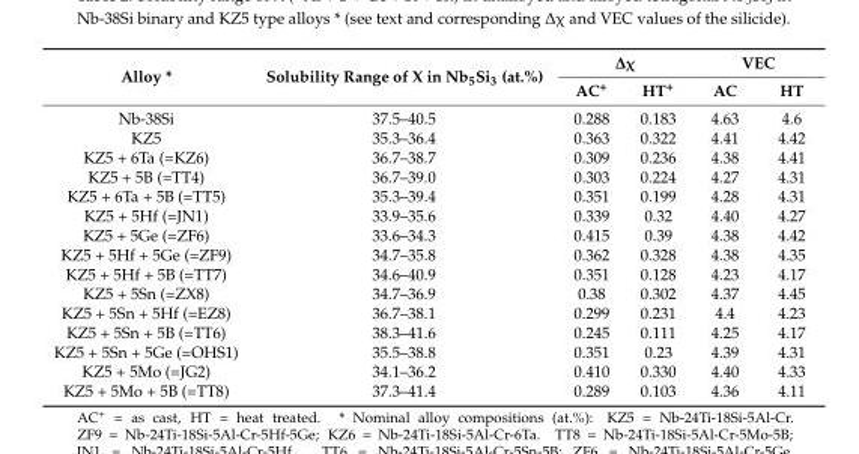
<table><thead><tr><td rowspan="2">Alloy *</td><td rowspan="2">Solubility Range of X in Nb<sub>5</sub>Si<sub>3</sub> (at.%)</td><td colspan="2">∆χ</td><td colspan="2">VEC</td></tr><tr><td>AC<sup>+</sup></td><td>HT<sup>+</sup></td><td>AC</td><td>HT</td></tr></thead><tbody><tr><td>Nb-38Si</td><td>37.5–40.5</td><td>0.288</td><td>0.183</td><td>4.63</td><td>4.6</td></tr><tr><td>KZ5</td><td>35.3–36.4</td><td>0.363</td><td>0.322</td><td>4.41</td><td>4.42</td></tr><tr><td>KZ5 + 6Ta (=KZ6)</td><td>36.7–38.7</td><td>0.309</td><td>0.236</td><td>4.38</td><td>4.41</td></tr><tr><td>KZ5 + 5B (=TT4)</td><td>36.7–39.0</td><td>0.303</td><td>0.224</td><td>4.27</td><td>4.31</td></tr><tr><td>KZ5 + 6Ta + 5B (=TT5)</td><td>35.3–39.4</td><td>0.351</td><td>0.199</td><td>4.28</td><td>4.31</td></tr><tr><td>KZ5 + 5Hf (=JN1)</td><td>33.9–35.6</td><td>0.339</td><td>0.32</td><td>4.40</td><td>4.27</td></tr><tr><td>KZ5 + 5Ge (=ZF6)</td><td>33.6–34.3</td><td>0.415</td><td>0.39</td><td>4.38</td><td>4.42</td></tr><tr><td>KZ5 + 5Hf + 5Ge (=ZF9)</td><td>34.7–35.8</td><td>0.362</td><td>0.328</td><td>4.38</td><td>4.35</td></tr><tr><td>KZ5 + 5Hf + 5B (=TT7)</td><td>34.6–40.9</td><td>0.351</td><td>0.128</td><td>4.23</td><td>4.17</td></tr><tr><td>KZ5 + 5Sn (=ZX8)</td><td>34.7–36.9</td><td>0.38</td><td>0.302</td><td>4.37</td><td>4.45</td></tr><tr><td>KZ5 + 5Sn + 5Hf (=EZ8)</td><td>36.7–38.1</td><td>0.299</td><td>0.231</td><td>4.4</td><td>4.23</td></tr><tr><td>KZ5 + 5Sn + 5B (=TT6)</td><td>38.3–41.6</td><td>0.245</td><td>0.111</td><td>4.25</td><td>4.17</td></tr><tr><td>KZ5 + 5Sn + 5Ge (=OHS1)</td><td>35.5–38.8</td><td>0.351</td><td>0.23</td><td>4.39</td><td>4.31</td></tr><tr><td>KZ5 + 5Mo (=JG2)</td><td>34.1–36.2</td><td>0.410</td><td>0.330</td><td>4.40</td><td>4.33</td></tr><tr><td>KZ5 + 5Mo + 5B (=TT8)</td><td>37.3–41.4</td><td>0.289</td><td>0.103</td><td>4.36</td><td>4.11</td></tr></tbody></table>